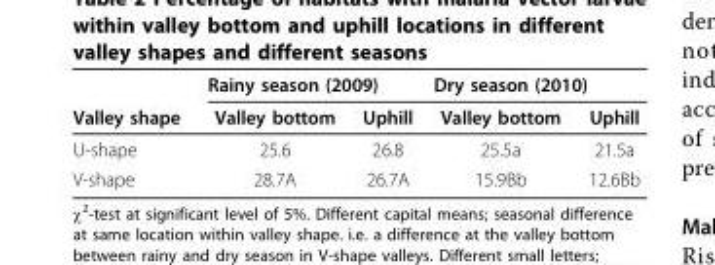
<table><thead><tr><td rowspan="2">Valley shape</td><td colspan="2">Rainy season (2009)</td><td colspan="2">Dry season (2010)</td></tr><tr><td>Valley bottom</td><td>Uphill</td><td>Valley bottom</td><td>Uphill</td></tr></thead><tbody><tr><td>U-shape</td><td>25.6</td><td>26.8</td><td>25.5a</td><td>21.5a</td></tr><tr><td>V-shape</td><td>28.7A</td><td>26.7A</td><td>15.9Bb</td><td>12.6Bb</td></tr></tbody></table>